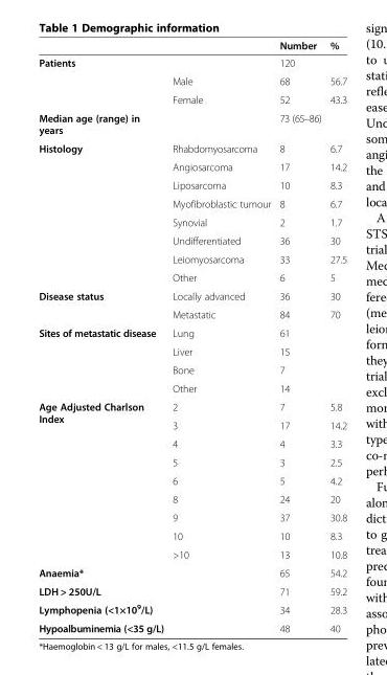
<table><thead><tr><td></td><td></td><td>Number</td><td>%</td></tr></thead><tbody><tr><td rowspan="3">Patients</td><td></td><td>120</td><td></td></tr><tr><td>Male</td><td>68</td><td>56.7</td></tr><tr><td>Female</td><td>52</td><td>43.3</td></tr><tr><td>Median age (range) in years</td><td></td><td>73 (65–86)</td><td></td></tr><tr><td rowspan="8">Histology</td><td>Rhabdomyosarcoma</td><td>8</td><td>6.7</td></tr><tr><td>Angiosarcoma</td><td>17</td><td>14.2</td></tr><tr><td>Liposarcoma</td><td>10</td><td>8.3</td></tr><tr><td>Myofibroblastic tumour</td><td>8</td><td>6.7</td></tr><tr><td>Synovial</td><td>2</td><td>1.7</td></tr><tr><td>Undifferentiated</td><td>36</td><td>30</td></tr><tr><td>Leiomyosarcoma</td><td>33</td><td>27.5</td></tr><tr><td>Other</td><td>6</td><td>5</td></tr><tr><td rowspan="2">Disease status</td><td>Locally advanced</td><td>36</td><td>30</td></tr><tr><td>Metastatic</td><td>84</td><td>70</td></tr><tr><td rowspan="4">Sites of metastatic disease</td><td>Lung</td><td>61</td><td rowspan="4"></td></tr><tr><td>Liver</td><td>15</td></tr><tr><td>Bone</td><td>7</td></tr><tr><td>Other</td><td>14</td></tr><tr><td rowspan="9">Age Adjusted Charlson Index</td><td>2</td><td>7</td><td>5.8</td></tr><tr><td>3</td><td>17</td><td>14.2</td></tr><tr><td>4</td><td>4</td><td>3.3</td></tr><tr><td>5</td><td>3</td><td>2.5</td></tr><tr><td>6</td><td>5</td><td>4.2</td></tr><tr><td>8</td><td>24</td><td>20</td></tr><tr><td>9</td><td>37</td><td>30.8</td></tr><tr><td>10</td><td>10</td><td>8.3</td></tr><tr><td>&gt;10</td><td>13</td><td>10.8</td></tr><tr><td>Anaemia*</td><td></td><td>65</td><td>54.2</td></tr><tr><td>LDH &gt; 250U/L</td><td></td><td>71</td><td>59.2</td></tr><tr><td>Lymphopenia (&lt;1×10<sup>9</sup>/L)</td><td></td><td>34</td><td>28.3</td></tr><tr><td>Hypoalbuminemia (&lt;35 g/L)</td><td></td><td>48</td><td>40</td></tr></tbody></table>